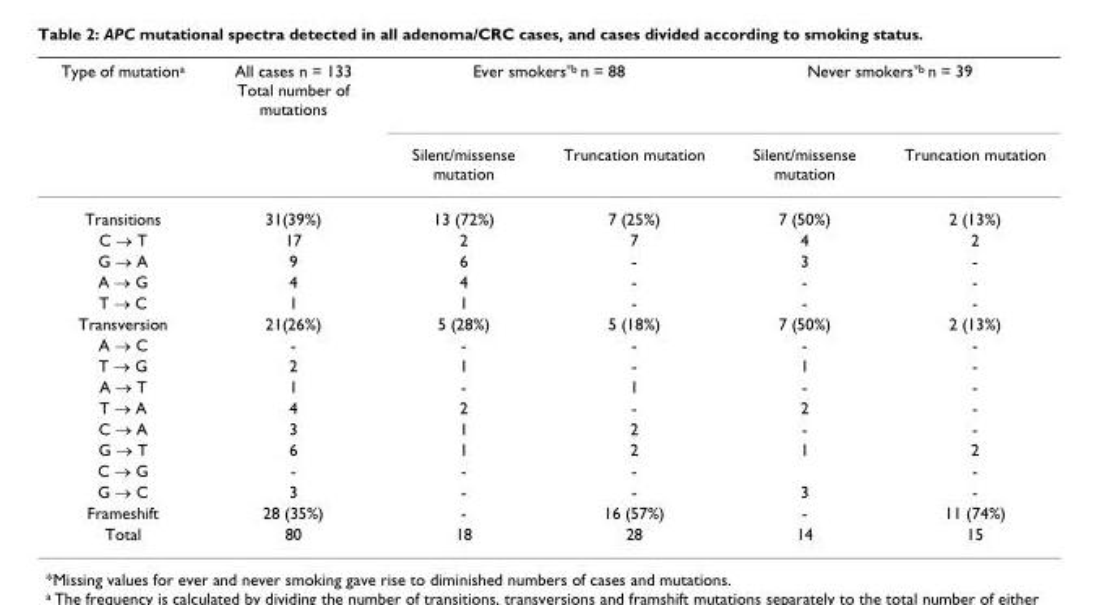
<table><thead><tr><td rowspan="2">Type of mutationa</td><td rowspan="2">All cases n = 133 Total number of mutations</td><td colspan="2">Ever smokers*b n = 88</td><td colspan="2">Never smokers*b n = 39</td></tr><tr><td>Silent/missense mutation</td><td>Truncation mutation</td><td>Silent/missense mutation</td><td>Truncation mutation</td></tr></thead><tbody><tr><td>Transitions</td><td>31(39%)</td><td>13 (72%)</td><td>7 (25%)</td><td>7 (50%)</td><td>2 (13%)</td></tr><tr><td>C → T</td><td>17</td><td>2</td><td>7</td><td>4</td><td>2</td></tr><tr><td>G → A</td><td>9</td><td>6</td><td>-</td><td>3</td><td>-</td></tr><tr><td>A → G</td><td>4</td><td>4</td><td>-</td><td>-</td><td>-</td></tr><tr><td>T → C</td><td>1</td><td>1</td><td>-</td><td>-</td><td>-</td></tr><tr><td>Transversion</td><td>21(26%)</td><td>5 (28%)</td><td>5 (18%)</td><td>7 (50%)</td><td>2 (13%)</td></tr><tr><td>A → C</td><td>-</td><td>-</td><td>-</td><td>-</td><td>-</td></tr><tr><td>T → G</td><td>2</td><td>1</td><td>-</td><td>1</td><td>-</td></tr><tr><td>A → T</td><td>1</td><td>-</td><td>1</td><td>-</td><td>-</td></tr><tr><td>T → A</td><td>4</td><td>2</td><td>-</td><td>2</td><td>-</td></tr><tr><td>C → A</td><td>3</td><td>1</td><td>2</td><td>-</td><td>-</td></tr><tr><td>G → T</td><td>6</td><td>1</td><td>2</td><td>1</td><td>2</td></tr><tr><td>C → G</td><td>-</td><td>-</td><td>-</td><td></td><td>-</td></tr><tr><td>G → C</td><td>3</td><td>-</td><td>-</td><td>3</td><td>-</td></tr><tr><td>Frameshift</td><td>28 (35%)</td><td>-</td><td>16 (57%)</td><td>-</td><td>11 (74%)</td></tr><tr><td>Total</td><td>80</td><td>18</td><td>28</td><td>14</td><td>15</td></tr></tbody></table>